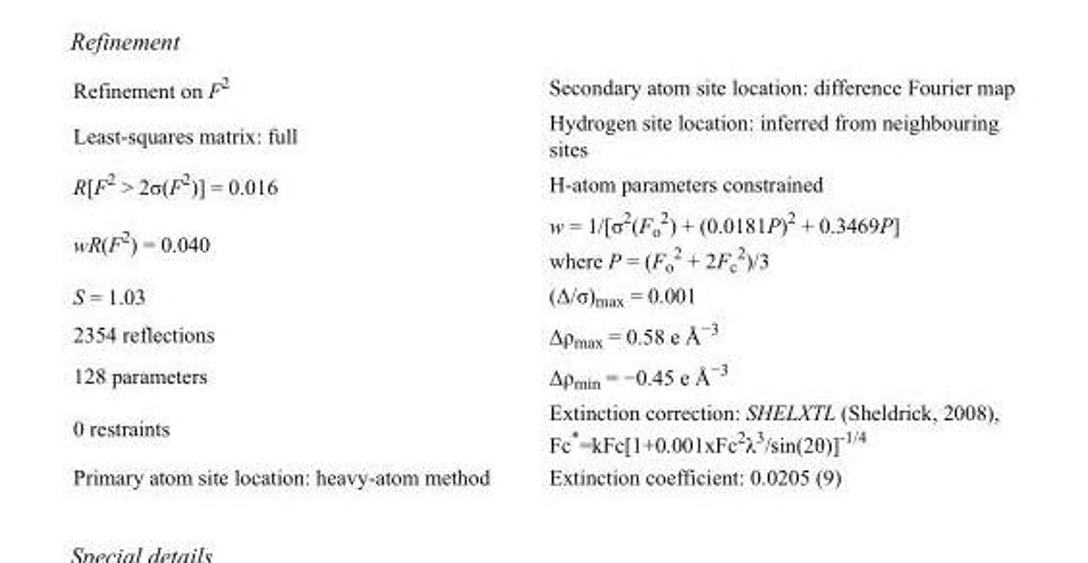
<table><tbody><tr><td>Refinement on F<sup>2</sup></td><td>Secondary atom site location: difference Fourier map</td></tr><tr><td>Least-squares matrix: full</td><td>Hydrogen site location: inferred from neighbouring sites</td></tr><tr><td>R[F<sup>2</sup> &gt; 2σ(F<sup>2</sup>)] = 0.016</td><td>H-atom parameters constrained</td></tr><tr><td>wR(F<sup>2</sup>) = 0.040</td><td>w = 1/[σ<sup>2</sup>(F<sub>o</sub> <sup>2</sup>) + (0.0181P)<sup>2</sup> + 0.3469P] where P = (F<sub>o</sub> <sup>2</sup> + 2F<sub>c</sub> <sup>2</sup>)/3</td></tr><tr><td>S = 1.03</td><td>(Δ/σ)<sub>max</sub> = 0.001</td></tr><tr><td>2354 reflections</td><td>Δρ<sub>max</sub> = 0.58 e Å<sup>−3</sup></td></tr><tr><td>128 parameters</td><td>Δρ<sub>min</sub> = −0.45 e Å<sup>−3</sup></td></tr><tr><td>0 restraints</td><td>Extinction correction: SHELXTL (Sheldrick, 2008), Fc*=kFc[1+0.001xFc<sup>2</sup>λ<sup>3</sup>/sin(2θ)]<sup>-1/4</sup></td></tr><tr><td>Primary atom site location: heavy-atom method</td><td>Extinction coefficient: 0.0205 (9)</td></tr></tbody></table>